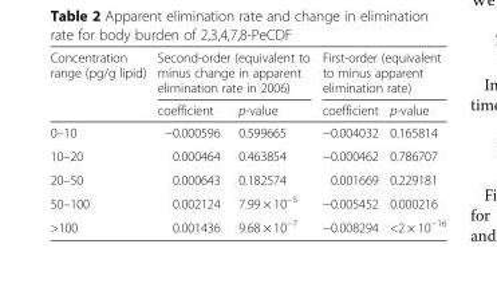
<table><thead><tr><td rowspan="2">Concentration range (pg/g lipid)</td><td colspan="2">Second-order (equivalent to minus change in apparent elimination rate in 2006)</td><td colspan="2">First-order (equivalent to minus apparent elimination rate)</td></tr><tr><td>coefficient</td><td>p-value</td><td>coefficient</td><td>p-value</td></tr></thead><tbody><tr><td>0–10</td><td>−0.000596</td><td>0.599665</td><td>−0.004032</td><td>0.165814</td></tr><tr><td>10–20</td><td>0.000464</td><td>0.463854</td><td>−0.000462</td><td>0.786707</td></tr><tr><td>20–50</td><td>0.000643</td><td>0.182574</td><td>0.001669</td><td>0.229181</td></tr><tr><td>50–100</td><td>0.002124</td><td>7.99 × 10<sup>−5</sup></td><td>−0.005452</td><td>0.000216</td></tr><tr><td>&gt;100</td><td>0.001436</td><td>9.68 × 10<sup>−7</sup></td><td>−0.008294</td><td>&lt;2 × 10<sup>−16</sup></td></tr></tbody></table>